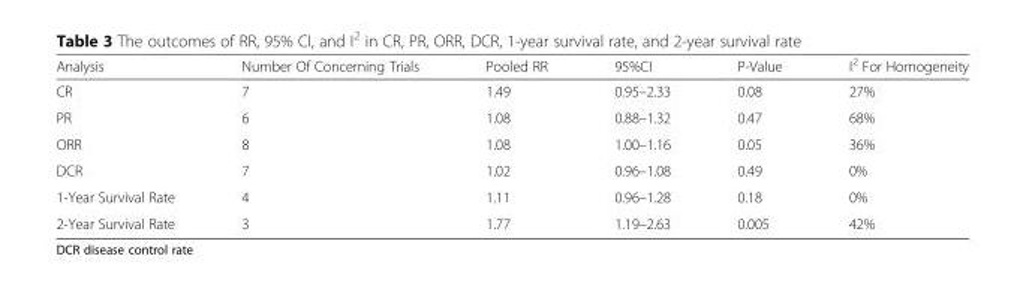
<table><thead><tr><td>Analysis</td><td>Number Of Concerning Trials</td><td>Pooled RR</td><td>95%CI</td><td>P-Value</td><td>I<sup>2</sup> For Homogeneity</td></tr></thead><tbody><tr><td>CR</td><td>7</td><td>1.49</td><td>0.95–2.33</td><td>0.08</td><td>27%</td></tr><tr><td>PR</td><td>6</td><td>1.08</td><td>0.88–1.32</td><td>0.47</td><td>68%</td></tr><tr><td>ORR</td><td>8</td><td>1.08</td><td>1.00–1.16</td><td>0.05</td><td>36%</td></tr><tr><td>DCR</td><td>7</td><td>1.02</td><td>0.96–1.08</td><td>0.49</td><td>0%</td></tr><tr><td>1-Year Survival Rate</td><td>4</td><td>1.11</td><td>0.96–1.28</td><td>0.18</td><td>0%</td></tr><tr><td>2-Year Survival Rate</td><td>3</td><td>1.77</td><td>1.19–2.63</td><td>0.005</td><td>42%</td></tr></tbody></table>